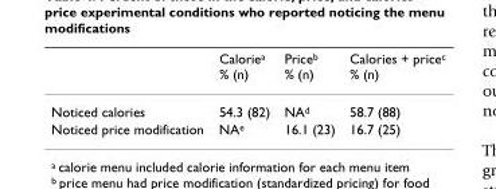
<table><thead><tr><td></td><td>Calorie<sup>a</sup> % (n)</td><td>Price<sup>b</sup> % (n)</td><td>Calories + price<sup>c</sup> % (n)</td></tr></thead><tbody><tr><td>Noticed calories</td><td>54.3 (82)</td><td>NA<sup>d</sup></td><td>58.7 (88)</td></tr><tr><td>Noticed price modification</td><td>NA<sup>e</sup></td><td>16.1 (23)</td><td>16.7 (25)</td></tr></tbody></table>